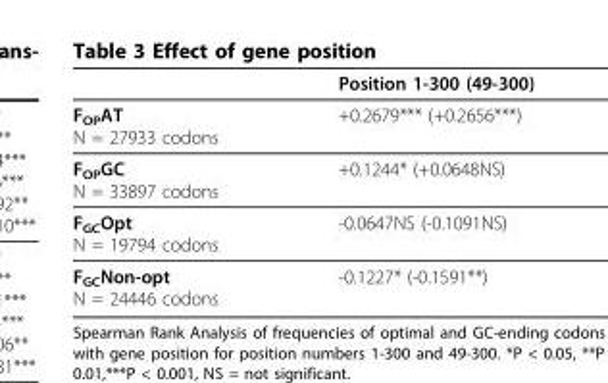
<table><thead><tr><td></td><td>Position 1-300 (49-300)</td></tr></thead><tbody><tr><td>F<sub>OP</sub>AT N = 27933 codons</td><td>+0.2679*** (+0.2656***)</td></tr><tr><td>F<sub>OP</sub>GC N = 33897 codons</td><td>+0.1244* (+0.0648NS)</td></tr><tr><td>F<sub>GC</sub>Opt N = 19794 codons</td><td>-0.0647NS (-0.1091NS)</td></tr><tr><td>F<sub>GC</sub>Non-opt N = 24446 codons</td><td>-0.1227* (-0.1591**)</td></tr></tbody></table>